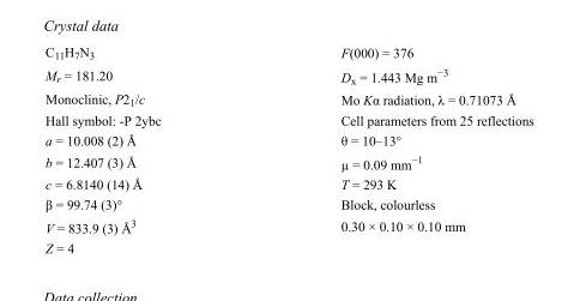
<table><tbody><tr><td>C<sub>11</sub>H<sub>7</sub>N<sub>3</sub></td><td>F(000) = 376</td></tr><tr><td>M<sub>r</sub> = 181.20</td><td>D<sub>x</sub> = 1.443 Mg m<sup>−3</sup></td></tr><tr><td>Monoclinic, P2<sub>1</sub>/c</td><td>Mo Kα radiation, λ = 0.71073 Å</td></tr><tr><td>Hall symbol: -P 2ybc</td><td>Cell parameters from 25 reflections</td></tr><tr><td>a = 10.008 (2) Å</td><td>θ = 10–13°</td></tr><tr><td>b = 12.407 (3) Å</td><td>µ = 0.09 mm<sup>−1</sup></td></tr><tr><td>c = 6.8140 (14) Å</td><td>T = 293 K</td></tr><tr><td>β = 99.74 (3)°</td><td>Block, colourless</td></tr><tr><td>V = 833.9 (3) Å<sup>3</sup></td><td>0.30 × 0.10 × 0.10 mm</td></tr><tr><td>Z = 4</td><td></td></tr></tbody></table>